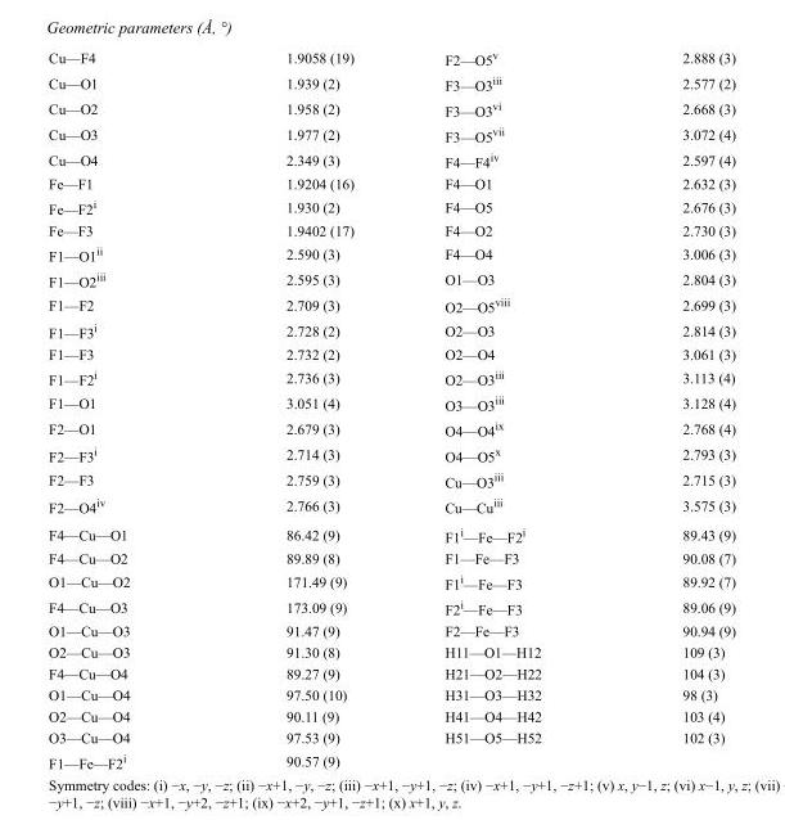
<table><tbody><tr><td>Cu—F4</td><td>1.9058 (19)</td><td>F2—O5<sup>v</sup></td><td>2.888 (3)</td></tr><tr><td>Cu—O1</td><td>1.939 (2)</td><td>F3—O3<sup>iii</sup></td><td>2.577 (2)</td></tr><tr><td>Cu—O2</td><td>1.958 (2)</td><td>F3—O3<sup>vi</sup></td><td>2.668 (3)</td></tr><tr><td>Cu—O3</td><td>1.977 (2)</td><td>F3—O5<sup>vii</sup></td><td>3.072 (4)</td></tr><tr><td>Cu—O4</td><td>2.349 (3)</td><td>F4—F4<sup>iv</sup></td><td>2.597 (4)</td></tr><tr><td>Fe—F1</td><td>1.9204 (16)</td><td>F4—O1</td><td>2.632 (3)</td></tr><tr><td>Fe—F2<sup>i</sup></td><td>1.930 (2)</td><td>F4—O5</td><td>2.676 (3)</td></tr><tr><td>Fe—F3</td><td>1.9402 (17)</td><td>F4—O2</td><td>2.730 (3)</td></tr><tr><td>F1—O1<sup>ii</sup></td><td>2.590 (3)</td><td>F4—O4</td><td>3.006 (3)</td></tr><tr><td>F1—O2<sup>iii</sup></td><td>2.595 (3)</td><td>O1—O3</td><td>2.804 (3)</td></tr><tr><td>F1—F2</td><td>2.709 (3)</td><td>O2—O5<sup>viii</sup></td><td>2.699 (3)</td></tr><tr><td>F1—F3<sup>i</sup></td><td>2.728 (2)</td><td>O2—O3</td><td>2.814 (3)</td></tr><tr><td>F1—F3</td><td>2.732 (2)</td><td>O2—O4</td><td>3.061 (3)</td></tr><tr><td>F1—F2<sup>i</sup></td><td>2.736 (3)</td><td>O2—O3<sup>iii</sup></td><td>3.113 (4)</td></tr><tr><td>F1—O1</td><td>3.051 (4)</td><td>O3—O3<sup>iii</sup></td><td>3.128 (4)</td></tr><tr><td>F2—O1</td><td>2.679 (3)</td><td>O4—O4<sup>ix</sup></td><td>2.768 (4)</td></tr><tr><td>F2—F3<sup>i</sup></td><td>2.714 (3)</td><td>O4—O5<sup>x</sup></td><td>2.793 (3)</td></tr><tr><td>F2—F3</td><td>2.759 (3)</td><td>Cu—O3<sup>iii</sup></td><td>2.715 (3)</td></tr><tr><td>F2—O4<sup>iv</sup></td><td>2.766 (3)</td><td>Cu—Cu<sup>iii</sup></td><td>3.575 (3)</td></tr><tr><td>F4—Cu—O1</td><td>86.42 (9)</td><td>F1<sup>i</sup>—Fe—F2<sup>i</sup></td><td>89.43 (9)</td></tr><tr><td>F4—Cu—O2</td><td>89.89 (8)</td><td>F1—Fe—F3</td><td>90.08 (7)</td></tr><tr><td>O1—Cu—O2</td><td>171.49 (9)</td><td>F1<sup>i</sup>—Fe—F3</td><td>89.92 (7)</td></tr><tr><td>F4—Cu—O3</td><td>173.09 (9)</td><td>F2<sup>i</sup>—Fe—F3</td><td>89.06 (9)</td></tr><tr><td>O1—Cu—O3</td><td>91.47 (9)</td><td>F2—Fe—F3</td><td>90.94 (9)</td></tr><tr><td>O2—Cu—O3</td><td>91.30 (8)</td><td>H11—O1—H12</td><td>109 (3)</td></tr><tr><td>F4—Cu—O4</td><td>89.27 (9)</td><td>H21—O2—H22</td><td>104 (3)</td></tr><tr><td>O1—Cu—O4</td><td>97.50 (10)</td><td>H31—O3—H32</td><td>98 (3)</td></tr><tr><td>O2—Cu—O4</td><td>90.11 (9)</td><td>H41—O4—H42</td><td>103 (4)</td></tr><tr><td>O3—Cu—O4</td><td>97.53 (9)</td><td>H51—O5—H52</td><td>102 (3)</td></tr><tr><td>F1—Fe—F2<sup>i</sup></td><td>90.57 (9)</td><td></td><td></td></tr></tbody></table>